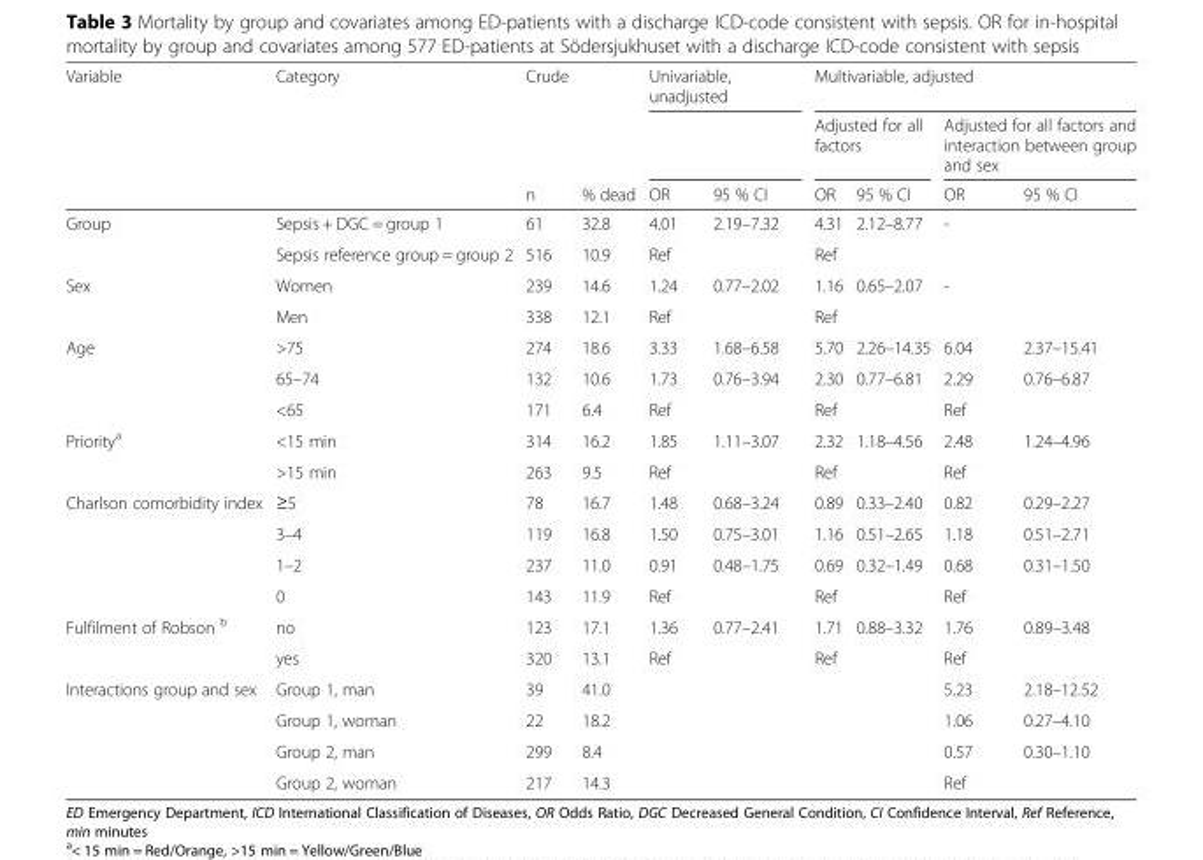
<table><thead><tr><td rowspan="3">Variable</td><td rowspan="3">Category</td><td rowspan="3">Crude n</td><td rowspan="3">% dead</td><td colspan="2">Univariable, unadjusted</td><td colspan="4">Multivariable, adjusted</td></tr><tr><td rowspan="2">OR</td><td rowspan="2">95 % CI</td><td colspan="2">Adjusted for all factors</td><td colspan="2">Adjusted for all factors and interaction between group and sex</td></tr><tr><td>OR</td><td>95 % CI</td><td>OR</td><td>95 % CI</td></tr></thead><tbody><tr><td rowspan="2">Group</td><td>Sepsis + DGC = group 1</td><td>61</td><td>32.8</td><td>4.01</td><td>2.19–7.32</td><td>4.31</td><td>2.12–8.77</td><td>-</td><td></td></tr><tr><td>Sepsis reference group = group 2</td><td>516</td><td>10.9</td><td>Ref</td><td></td><td>Ref</td><td></td><td></td><td></td></tr><tr><td rowspan="2">Sex</td><td>Women</td><td>239</td><td>14.6</td><td>1.24</td><td>0.77–2.02</td><td>1.16</td><td>0.65–2.07</td><td>-</td><td></td></tr><tr><td>Men</td><td>338</td><td>12.1</td><td>Ref</td><td></td><td>Ref</td><td></td><td></td><td></td></tr><tr><td rowspan="3">Age</td><td>&gt;75</td><td>274</td><td>18.6</td><td>3.33</td><td>1.68–6.58</td><td>5.70</td><td>2.26–14.35</td><td>6.04</td><td>2.37–15.41</td></tr><tr><td>65–74</td><td>132</td><td>10.6</td><td>1.73</td><td>0.76–3.94</td><td>2.30</td><td>0.77–6.81</td><td>2.29</td><td>0.76–6.87</td></tr><tr><td>&lt;65</td><td>171</td><td>6.4</td><td>Ref</td><td></td><td>Ref</td><td></td><td>Ref</td><td></td></tr><tr><td rowspan="2">Priority<sup>a</sup></td><td>&lt;15 min</td><td>314</td><td>16.2</td><td>1.85</td><td>1.11–3.07</td><td>2.32</td><td>1.18–4.56</td><td>2.48</td><td>1.24–4.96</td></tr><tr><td>&gt;15 min</td><td>263</td><td>9.5</td><td>Ref</td><td></td><td>Ref</td><td></td><td>Ref</td><td></td></tr><tr><td rowspan="4">Charlson comorbidity index</td><td>≥5</td><td>78</td><td>16.7</td><td>1.48</td><td>0.68–3.24</td><td>0.89</td><td>0.33–2.40</td><td>0.82</td><td>0.29–2.27</td></tr><tr><td>3–4</td><td>119</td><td>16.8</td><td>1.50</td><td>0.75–3.01</td><td>1.16</td><td>0.51–2.65</td><td>1.18</td><td>0.51–2.71</td></tr><tr><td>1–2</td><td>237</td><td>11.0</td><td>0.91</td><td>0.48–1.75</td><td>0.69</td><td>0.32–1.49</td><td>0.68</td><td>0.31–1.50</td></tr><tr><td>0</td><td>143</td><td>11.9</td><td>Ref</td><td></td><td>Ref</td><td></td><td>Ref</td><td></td></tr><tr><td rowspan="2">Fulfilment of Robson <sup>b</sup></td><td>no</td><td>123</td><td>17.1</td><td>1.36</td><td>0.77–2.41</td><td>1.71</td><td>0.88–3.32</td><td>1.76</td><td>0.89–3.48</td></tr><tr><td>yes</td><td>320</td><td>13.1</td><td>Ref</td><td></td><td>Ref</td><td></td><td>Ref</td><td></td></tr><tr><td rowspan="4">Interactions group and sex</td><td>Group 1, man</td><td>39</td><td>41.0</td><td></td><td></td><td></td><td></td><td>5.23</td><td>2.18–12.52</td></tr><tr><td>Group 1, woman</td><td>22</td><td>18.2</td><td></td><td></td><td></td><td></td><td>1.06</td><td>0.27–4.10</td></tr><tr><td>Group 2, man</td><td>299</td><td>8.4</td><td></td><td></td><td></td><td></td><td>0.57</td><td>0.30–1.10</td></tr><tr><td>Group 2, woman</td><td>217</td><td>14.3</td><td></td><td></td><td></td><td></td><td>Ref</td><td></td></tr></tbody></table>